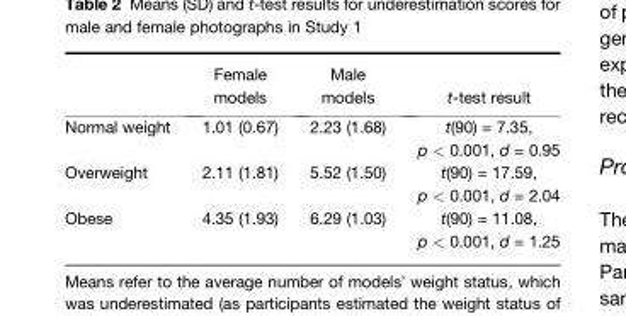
<table><thead><tr><td></td><td>Female models</td><td>Male models</td><td>t-test result</td></tr></thead><tbody><tr><td>Normal weight</td><td>1.01 (0.67)</td><td>2.23 (1.68)</td><td>t(90) = 7.35, p &lt; 0.001, d = 0.95</td></tr><tr><td>Overweight</td><td>2.11 (1.81)</td><td>5.52 (1.50)</td><td>t(90) = 17.59, p &lt; 0.001, d = 2.04</td></tr><tr><td>Obese</td><td>4.35 (1.93)</td><td>6.29 (1.03)</td><td>t(90) = 11.08, p &lt; 0.001, d = 1.25</td></tr></tbody></table>